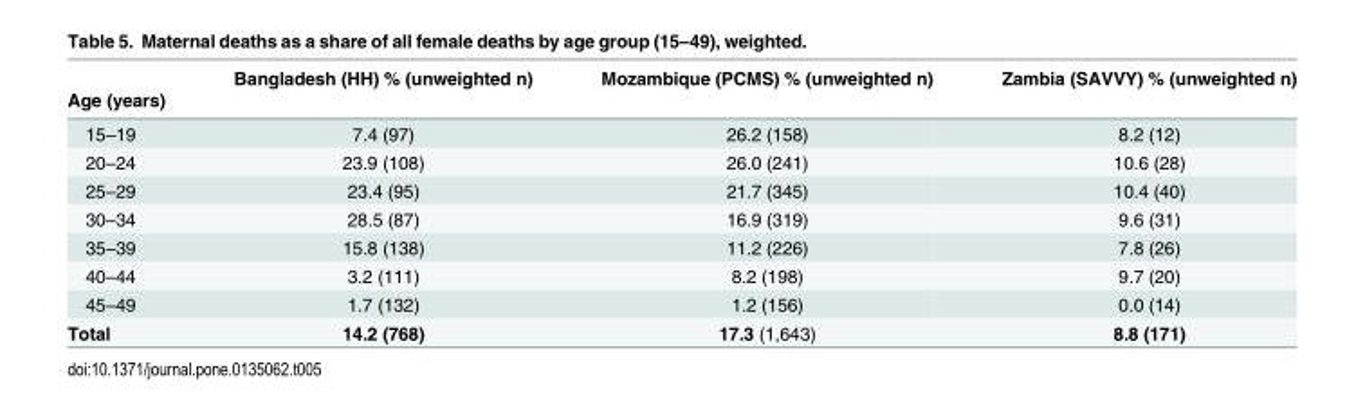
<table><thead><tr><td rowspan="2">Age (years)</td><td rowspan="2">Bangladesh (HH) % (unweighted n)</td><td rowspan="2">Mozambique (PCMS) % (unweighted n)</td><td rowspan="2">Zambia (SAVVY) % (unweighted n)</td></tr><tr></tr></thead><tbody><tr><td>15–19</td><td>7.4 (97)</td><td>26.2 (158)</td><td>8.2 (12)</td></tr><tr><td>20–24</td><td>23.9 (108)</td><td>26.0 (241)</td><td>10.6 (28)</td></tr><tr><td>25–29</td><td>23.4 (95)</td><td>21.7 (345)</td><td>10.4 (40)</td></tr><tr><td>30–34</td><td>28.5 (87)</td><td>16.9 (319)</td><td>9.6 (31)</td></tr><tr><td>35–39</td><td>15.8 (138)</td><td>11.2 (226)</td><td>7.8 (26)</td></tr><tr><td>40–44</td><td>3.2 (111)</td><td>8.2 (198)</td><td>9.7 (20)</td></tr><tr><td>45–49</td><td>1.7 (132)</td><td>1.2 (156)</td><td>0.0 (14)</td></tr><tr><td>Total</td><td>14.2 (768)</td><td>17.3 (1,643)</td><td>8.8 (171)</td></tr></tbody></table>